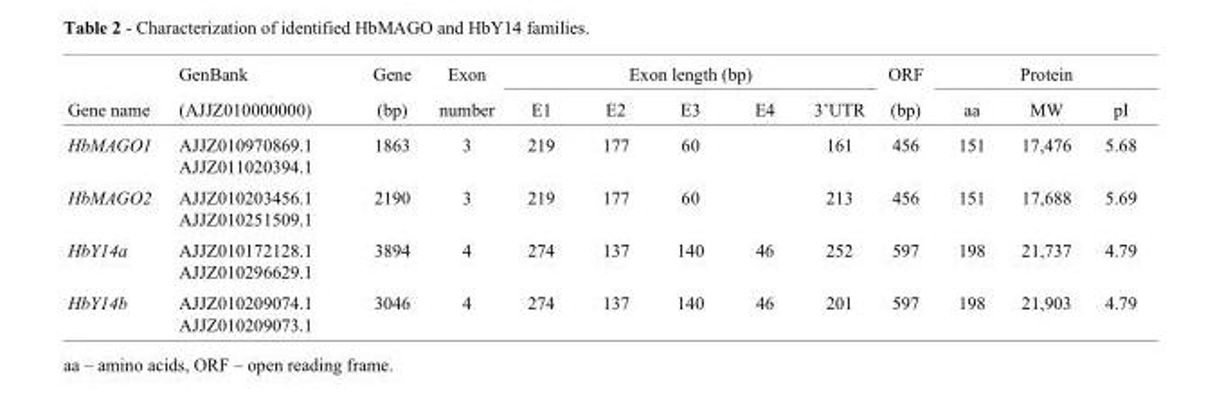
<table><thead><tr><td rowspan="2">Gene name</td><td rowspan="2">GenBank (AJJZ010000000)</td><td rowspan="2">Gene (bp)</td><td rowspan="2">Exon number</td><td colspan="5">Exon length (bp)</td><td rowspan="2">ORF (bp)</td><td colspan="3">Protein</td></tr><tr><td>E1</td><td>E2</td><td>E3</td><td>E4</td><td>3’UTR</td><td>aa</td><td>MW</td><td>pI</td></tr></thead><tbody><tr><td>HbMAGO1</td><td>AJJZ010970869.1 AJJZ011020394.1</td><td>1863</td><td>3</td><td>219</td><td>177</td><td>60</td><td></td><td>161</td><td>456</td><td>151</td><td>17,476</td><td>5.68</td></tr><tr><td>HbMAGO2</td><td>AJJZ010203456.1 AJJZ010251509.1</td><td>2190</td><td>3</td><td>219</td><td>177</td><td>60</td><td></td><td>213</td><td>456</td><td>151</td><td>17,688</td><td>5.69</td></tr><tr><td>HbY14a</td><td>AJJZ010172128.1 AJJZ010296629.1</td><td>3894</td><td>4</td><td>274</td><td>137</td><td>140</td><td>46</td><td>252</td><td>597</td><td>198</td><td>21,737</td><td>4.79</td></tr><tr><td>HbY14b</td><td>AJJZ010209074.1 AJJZ010209073.1</td><td>3046</td><td>4</td><td>274</td><td>137</td><td>140</td><td>46</td><td>201</td><td>597</td><td>198</td><td>21,903</td><td>4.79</td></tr></tbody></table>